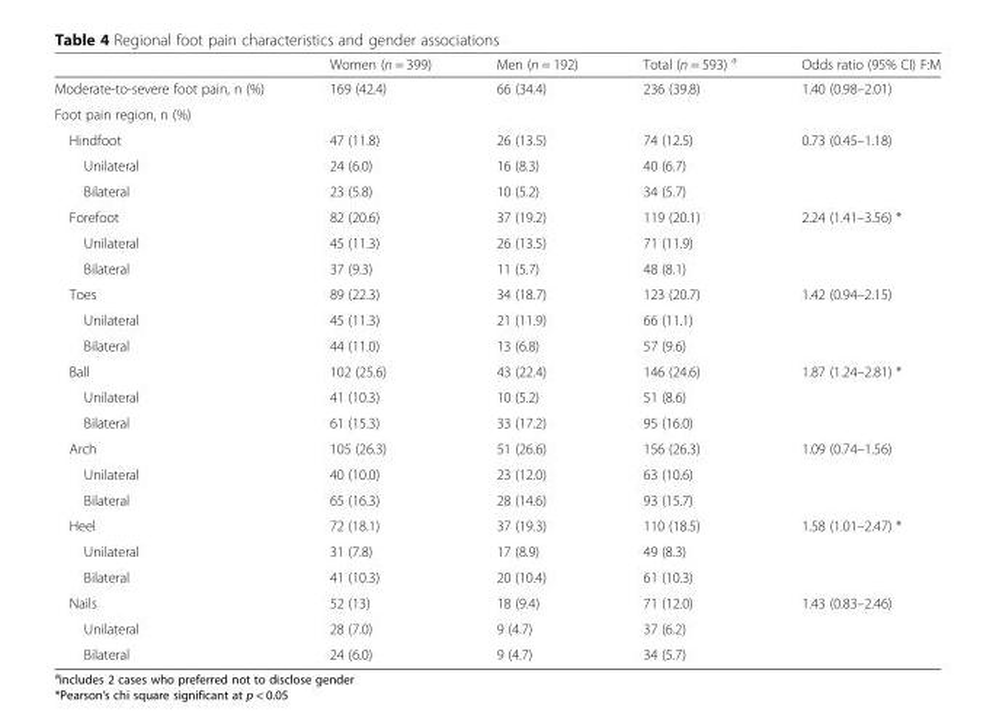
<table><thead><tr><td></td><td>Women (n = 399)</td><td>Men (n = 192)</td><td>Total (n = 593) <sup>a</sup></td><td>Odds ratio (95% CI) F:M</td></tr></thead><tbody><tr><td>Moderate-to-severe foot pain, n (%)</td><td>169 (42.4)</td><td>66 (34.4)</td><td>236 (39.8)</td><td>1.40 (0.98–2.01)</td></tr><tr><td colspan="5">Foot pain region, n (%)</td></tr><tr><td>Hindfoot</td><td>47 (11.8)</td><td>26 (13.5)</td><td>74 (12.5)</td><td>0.73 (0.45–1.18)</td></tr><tr><td>Unilateral</td><td>24 (6.0)</td><td>16 (8.3)</td><td>40 (6.7)</td><td></td></tr><tr><td>Bilateral</td><td>23 (5.8)</td><td>10 (5.2)</td><td>34 (5.7)</td><td></td></tr><tr><td>Forefoot</td><td>82 (20.6)</td><td>37 (19.2)</td><td>119 (20.1)</td><td>2.24 (1.41–3.56) *</td></tr><tr><td>Unilateral</td><td>45 (11.3)</td><td>26 (13.5)</td><td>71 (11.9)</td><td></td></tr><tr><td>Bilateral</td><td>37 (9.3)</td><td>11 (5.7)</td><td>48 (8.1)</td><td></td></tr><tr><td>Toes</td><td>89 (22.3)</td><td>34 (18.7)</td><td>123 (20.7)</td><td>1.42 (0.94–2.15)</td></tr><tr><td>Unilateral</td><td>45 (11.3)</td><td>21 (11.9)</td><td>66 (11.1)</td><td></td></tr><tr><td>Bilateral</td><td>44 (11.0)</td><td>13 (6.8)</td><td>57 (9.6)</td><td></td></tr><tr><td>Ball</td><td>102 (25.6)</td><td>43 (22.4)</td><td>146 (24.6)</td><td>1.87 (1.24–2.81) *</td></tr><tr><td>Unilateral</td><td>41 (10.3)</td><td>10 (5.2)</td><td>51 (8.6)</td><td></td></tr><tr><td>Bilateral</td><td>61 (15.3)</td><td>33 (17.2)</td><td>95 (16.0)</td><td></td></tr><tr><td>Arch</td><td>105 (26.3)</td><td>51 (26.6)</td><td>156 (26.3)</td><td>1.09 (0.74–1.56)</td></tr><tr><td>Unilateral</td><td>40 (10.0)</td><td>23 (12.0)</td><td>63 (10.6)</td><td></td></tr><tr><td>Bilateral</td><td>65 (16.3)</td><td>28 (14.6)</td><td>93 (15.7)</td><td></td></tr><tr><td>Heel</td><td>72 (18.1)</td><td>37 (19.3)</td><td>110 (18.5)</td><td>1.58 (1.01–2.47) *</td></tr><tr><td>Unilateral</td><td>31 (7.8)</td><td>17 (8.9)</td><td>49 (8.3)</td><td></td></tr><tr><td>Bilateral</td><td>41 (10.3)</td><td>20 (10.4)</td><td>61 (10.3)</td><td></td></tr><tr><td>Nails</td><td>52 (13)</td><td>18 (9.4)</td><td>71 (12.0)</td><td>1.43 (0.83–2.46)</td></tr><tr><td>Unilateral</td><td>28 (7.0)</td><td>9 (4.7)</td><td>37 (6.2)</td><td></td></tr><tr><td>Bilateral</td><td>24 (6.0)</td><td>9 (4.7)</td><td>34 (5.7)</td><td></td></tr></tbody></table>